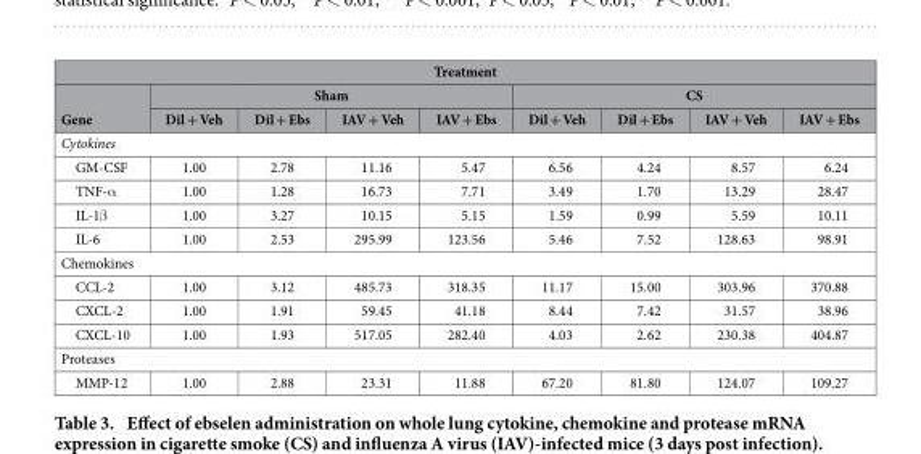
<table><thead><tr><td colspan="9">Treatment</td></tr><tr><td rowspan="2">Gene</td><td colspan="4">Sham</td><td colspan="4">CS</td></tr><tr><td>Dil + Veh</td><td>Dil + Ebs</td><td>IAV + Veh</td><td>IAV + Ebs</td><td>Dil + Veh</td><td>Dil + Ebs</td><td>IAV + Veh</td><td>IAV + Ebs</td></tr></thead><tbody><tr><td colspan="9">Cytokines</td></tr><tr><td>GM-CSF</td><td>1.00</td><td>2.78</td><td>11.16</td><td>5.47</td><td>6.56</td><td>4.24</td><td>8.57</td><td>6.24</td></tr><tr><td>TNF-α</td><td>1.00</td><td>1.28</td><td>16.73</td><td>7.71</td><td>3.49</td><td>1.70</td><td>13.29</td><td>28.47</td></tr><tr><td>IL-1β</td><td>1.00</td><td>3.27</td><td>10.15</td><td>5.15</td><td>1.59</td><td>0.99</td><td>5.59</td><td>10.11</td></tr><tr><td>IL-6</td><td>1.00</td><td>2.53</td><td>295.99</td><td>123.56</td><td>5.46</td><td>7.52</td><td>128.63</td><td>98.91</td></tr><tr><td colspan="9">Chemokines</td></tr><tr><td>CCL-2</td><td>1.00</td><td>3.12</td><td>485.73</td><td>318.35</td><td>11.17</td><td>15.00</td><td>303.96</td><td>370.88</td></tr><tr><td>CXCL-2</td><td>1.00</td><td>1.91</td><td>59.45</td><td>41.18</td><td>8.44</td><td>7.42</td><td>31.57</td><td>38.96</td></tr><tr><td>CXCL-10</td><td>1.00</td><td>1.93</td><td>517.05</td><td>282.40</td><td>4.03</td><td>2.62</td><td>230.38</td><td>404.87</td></tr><tr><td colspan="9">Proteases</td></tr><tr><td>MMP-12</td><td>1.00</td><td>2.88</td><td>23.31</td><td>11.88</td><td>67.20</td><td>81.80</td><td>124.07</td><td>109.27</td></tr></tbody></table>